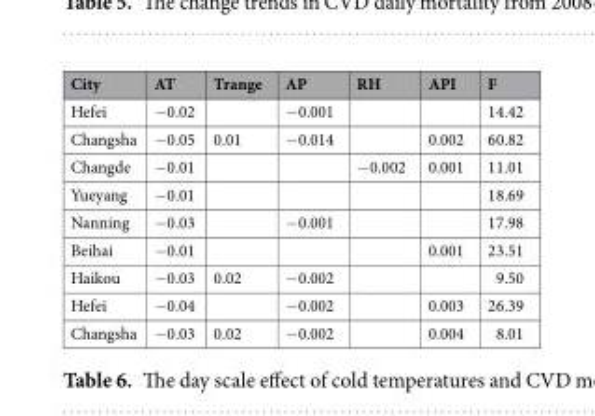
<table><thead><tr><td>City</td><td>AT</td><td>Trange</td><td>AP</td><td>RH</td><td>API</td><td>F</td></tr></thead><tbody><tr><td>Hefei</td><td>−0.02</td><td></td><td>−0.001</td><td></td><td></td><td>14.42</td></tr><tr><td>Changsha</td><td>−0.05</td><td>0.01</td><td>−0.014</td><td></td><td>0.002</td><td>60.82</td></tr><tr><td>Changde</td><td>−0.01</td><td></td><td></td><td>−0.002</td><td>0.001</td><td>11.01</td></tr><tr><td>Yueyang</td><td>−0.01</td><td></td><td></td><td></td><td></td><td>18.69</td></tr><tr><td>Nanning</td><td>−0.03</td><td></td><td>−0.001</td><td></td><td></td><td>17.98</td></tr><tr><td>Beihai</td><td>−0.01</td><td></td><td></td><td></td><td>0.001</td><td>23.51</td></tr><tr><td>Haikou</td><td>−0.03</td><td>0.02</td><td>−0.002</td><td></td><td></td><td>9.50</td></tr><tr><td>Hefei</td><td>−0.04</td><td></td><td>−0.002</td><td></td><td>0.003</td><td>26.39</td></tr><tr><td>Changsha</td><td>−0.03</td><td>0.02</td><td>−0.002</td><td></td><td>0.004</td><td>8.01</td></tr></tbody></table>